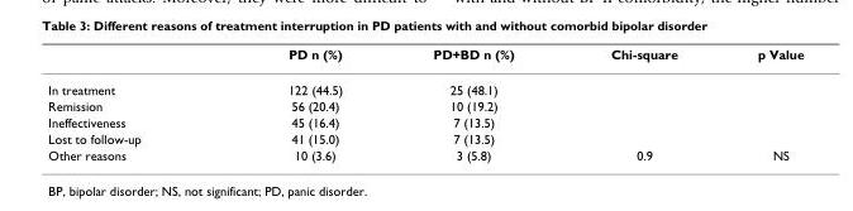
<table><thead><tr><td></td><td>PD n (%)</td><td>PD+BD n (%)</td><td>Chi-square</td><td>p Value</td></tr></thead><tbody><tr><td>In treatment</td><td>122 (44.5)</td><td>25 (48.1)</td><td></td><td></td></tr><tr><td>Remission</td><td>56 (20.4)</td><td>10 (19.2)</td><td></td><td></td></tr><tr><td>Ineffectiveness</td><td>45 (16.4)</td><td>7 (13.5)</td><td></td><td></td></tr><tr><td>Lost to follow-up</td><td>41 (15.0)</td><td>7 (13.5)</td><td></td><td></td></tr><tr><td>Other reasons</td><td>10 (3.6)</td><td>3 (5.8)</td><td>0.9</td><td>NS</td></tr></tbody></table>